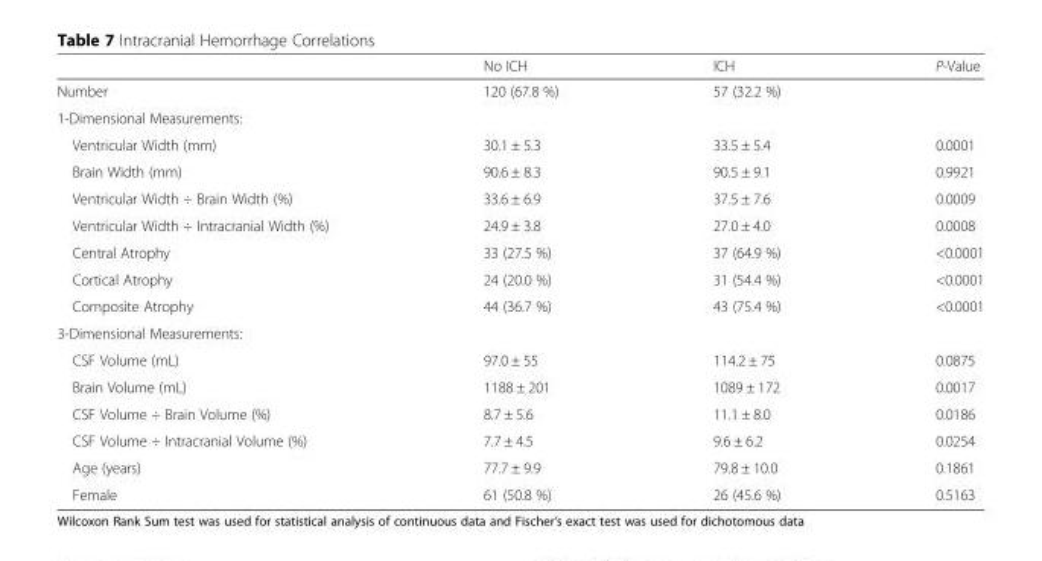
<table><thead><tr><td></td><td>No ICH</td><td>ICH</td><td>P-Value</td></tr></thead><tbody><tr><td>Number</td><td>120 (67.8 %)</td><td>57 (32.2 %)</td><td></td></tr><tr><td colspan="4">1-Dimensional Measurements:</td></tr><tr><td>Ventricular Width (mm)</td><td>30.1 ± 5.3</td><td>33.5 ± 5.4</td><td>0.0001</td></tr><tr><td>Brain Width (mm)</td><td>90.6 ± 8.3</td><td>90.5 ± 9.1</td><td>0.9921</td></tr><tr><td>Ventricular Width ÷ Brain Width (%)</td><td>33.6 ± 6.9</td><td>37.5 ± 7.6</td><td>0.0009</td></tr><tr><td>Ventricular Width ÷ Intracranial Width (%)</td><td>24.9 ± 3.8</td><td>27.0 ± 4.0</td><td>0.0008</td></tr><tr><td>Central Atrophy</td><td>33 (27.5 %)</td><td>37 (64.9 %)</td><td>&lt;0.0001</td></tr><tr><td>Cortical Atrophy</td><td>24 (20.0 %)</td><td>31 (54.4 %)</td><td>&lt;0.0001</td></tr><tr><td>Composite Atrophy</td><td>44 (36.7 %)</td><td>43 (75.4 %)</td><td>&lt;0.0001</td></tr><tr><td colspan="4">3-Dimensional Measurements:</td></tr><tr><td>CSF Volume (mL)</td><td>97.0 ± 55</td><td>114.2 ± 75</td><td>0.0875</td></tr><tr><td>Brain Volume (mL)</td><td>1188 ± 201</td><td>1089 ± 172</td><td>0.0017</td></tr><tr><td>CSF Volume ÷ Brain Volume (%)</td><td>8.7 ± 5.6</td><td>11.1 ± 8.0</td><td>0.0186</td></tr><tr><td>CSF Volume ÷ Intracranial Volume (%)</td><td>7.7 ± 4.5</td><td>9.6 ± 6.2</td><td>0.0254</td></tr><tr><td>Age (years)</td><td>77.7 ± 9.9</td><td>79.8 ± 10.0</td><td>0.1861</td></tr><tr><td>Female</td><td>61 (50.8 %)</td><td>26 (45.6 %)</td><td>0.5163</td></tr></tbody></table>